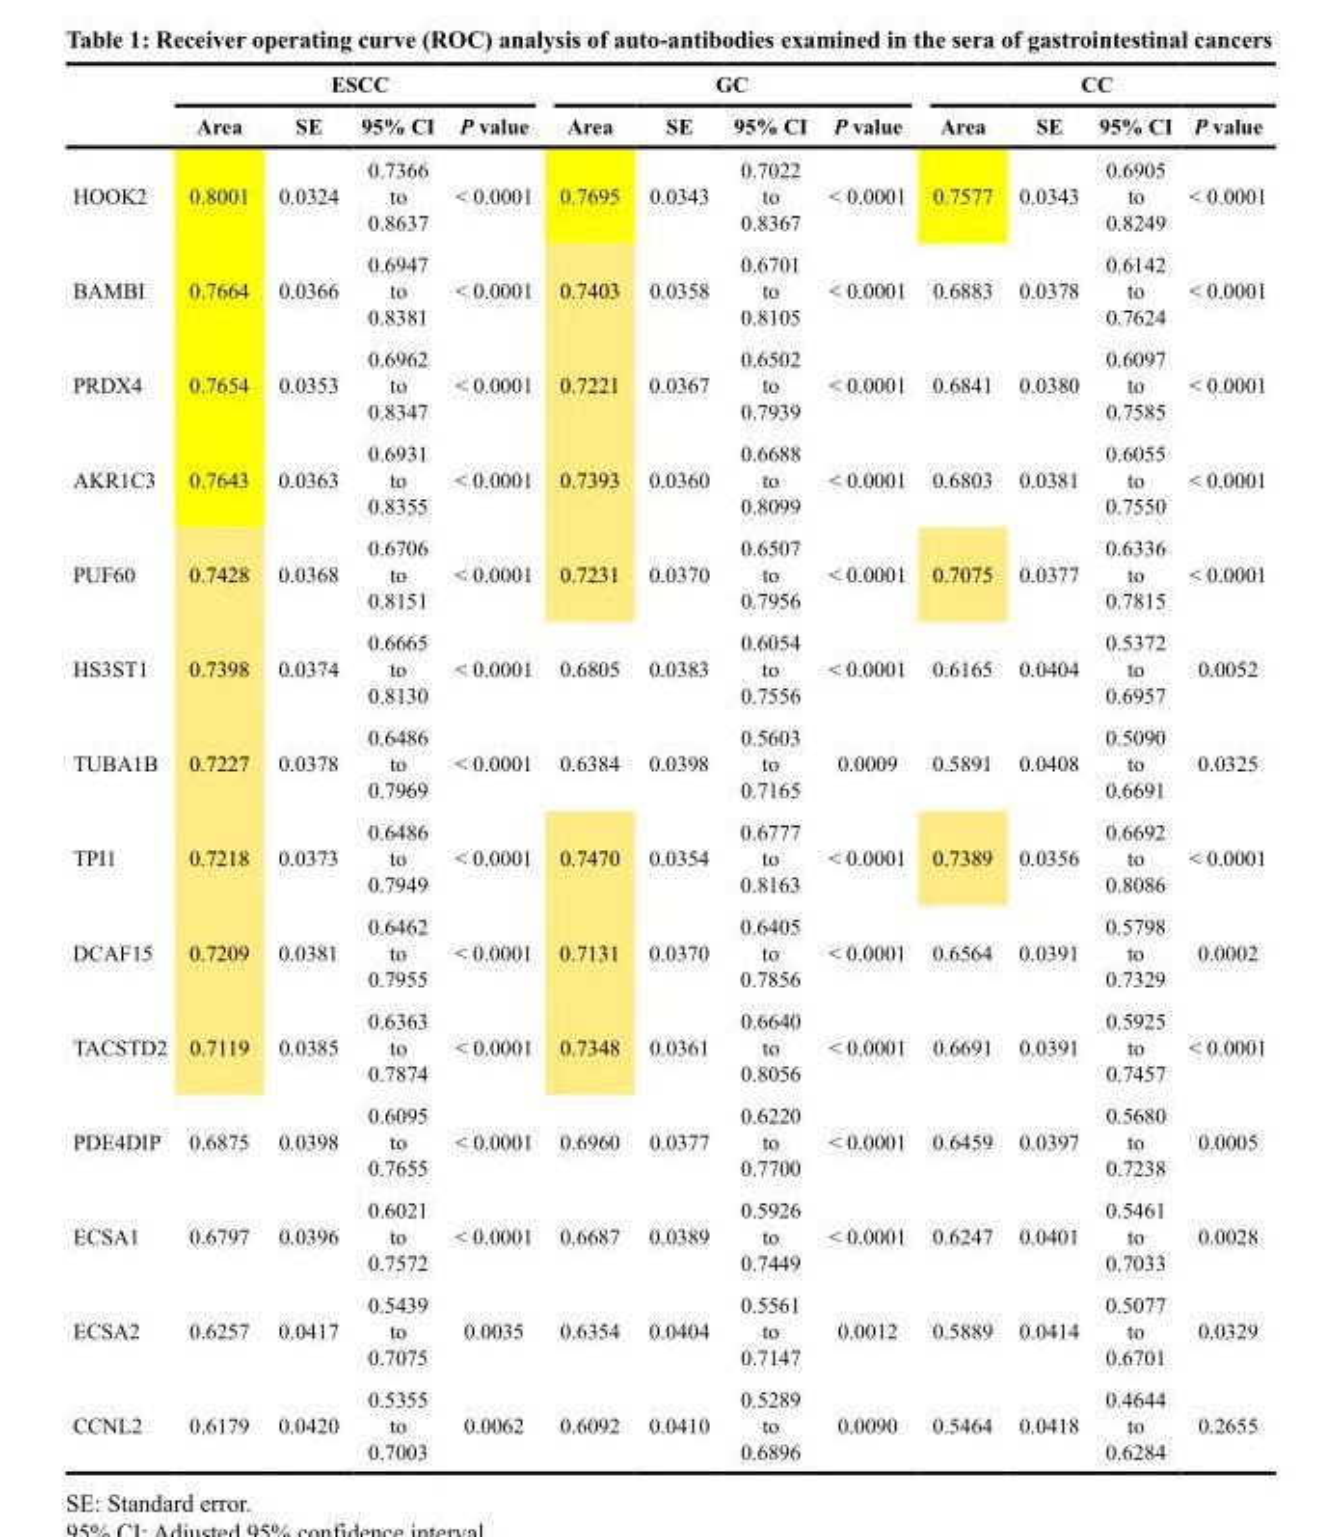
<table><thead><tr><td rowspan="2"></td><td colspan="4">ESCC</td><td colspan="4">GC</td><td colspan="4">CC</td></tr><tr><td>Area</td><td>SE</td><td>95% CI</td><td>P value</td><td>Area</td><td>SE</td><td>95% CI</td><td>P value</td><td>Area</td><td>SE</td><td>95% CI</td><td>P value</td></tr></thead><tbody><tr><td>HOOK2</td><td>0.8001</td><td>0.0324</td><td>0.7366 to 0.8637</td><td>&lt; 0.0001</td><td>0.7695</td><td>0.0343</td><td>0.7022 to 0.8367</td><td>&lt; 0.0001</td><td>0.7577</td><td>0.0343</td><td>0.6905 to 0.8249</td><td>&lt; 0.0001</td></tr><tr><td>BAMBI</td><td>0.7664</td><td>0.0366</td><td>0.6947 to 0.8381</td><td>&lt; 0.0001</td><td>0.7403</td><td>0.0358</td><td>0.6701 to 0.8105</td><td>&lt; 0.0001</td><td>0.6883</td><td>0.0378</td><td>0.6142 to 0.7624</td><td>&lt; 0.0001</td></tr><tr><td>PRDX4</td><td>0.7654</td><td>0.0353</td><td>0.6962 to 0.8347</td><td>&lt; 0.0001</td><td>0.7221</td><td>0.0367</td><td>0.6502 to 0.7939</td><td>&lt; 0.0001</td><td>0.6841</td><td>0.0380</td><td>0.6097 to 0.7585</td><td>&lt; 0.0001</td></tr><tr><td>AKR1C3</td><td>0.7643</td><td>0.0363</td><td>0.6931 to 0.8355</td><td>&lt; 0.0001</td><td>0.7393</td><td>0.0360</td><td>0.6688 to 0.8099</td><td>&lt; 0.0001</td><td>0.6803</td><td>0.0381</td><td>0.6055 to 0.7550</td><td>&lt; 0.0001</td></tr><tr><td>PUF60</td><td>0.7428</td><td>0.0368</td><td>0.6706 to 0.8151</td><td>&lt; 0.0001</td><td>0.7231</td><td>0.0370</td><td>0.6507 to 0.7956</td><td>&lt; 0.0001</td><td>0.7075</td><td>0.0377</td><td>0.6336 to 0.7815</td><td>&lt; 0.0001</td></tr><tr><td>HS3ST1</td><td>0.7398</td><td>0.0374</td><td>0.6665 to 0.8130</td><td>&lt; 0.0001</td><td>0.6805</td><td>0.0383</td><td>0.6054 to 0.7556</td><td>&lt; 0.0001</td><td>0.6165</td><td>0.0404</td><td>0.5372 to 0.6957</td><td>0.0052</td></tr><tr><td>TUBA1B</td><td>0.7227</td><td>0.0378</td><td>0.6486 to 0.7969</td><td>&lt; 0.0001</td><td>0.6384</td><td>0.0398</td><td>0.5603 to 0.7165</td><td>0.0009</td><td>0.5891</td><td>0.0408</td><td>0.5090 to 0.6691</td><td>0.0325</td></tr><tr><td>TPI1</td><td>0.7218</td><td>0.0373</td><td>0.6486 to 0.7949</td><td>&lt; 0.0001</td><td>0.7470</td><td>0.0354</td><td>0.6777 to 0.8163</td><td>&lt; 0.0001</td><td>0.7389</td><td>0.0356</td><td>0.6692 to 0.8086</td><td>&lt; 0.0001</td></tr><tr><td>DCAF15</td><td>0.7209</td><td>0.0381</td><td>0.6462 to 0.7955</td><td>&lt; 0.0001</td><td>0.7131</td><td>0.0370</td><td>0.6405 to 0.7856</td><td>&lt; 0.0001</td><td>0.6564</td><td>0.0391</td><td>0.5798 to 0.7329</td><td>0.0002</td></tr><tr><td>TACSTD2</td><td>0.7119</td><td>0.0385</td><td>0.6363 to 0.7874</td><td>&lt; 0.0001</td><td>0.7348</td><td>0.0361</td><td>0.6640 to 0.8056</td><td>&lt; 0.0001</td><td>0.6691</td><td>0.0391</td><td>0.5925 to 0.7457</td><td>&lt; 0.0001</td></tr><tr><td>PDE4DIP</td><td>0.6875</td><td>0.0398</td><td>0.6095 to 0.7655</td><td>&lt; 0.0001</td><td>0.6960</td><td>0.0377</td><td>0.6220 to 0.7700</td><td>&lt; 0.0001</td><td>0.6459</td><td>0.0397</td><td>0.5680 to 0.7238</td><td>0.0005</td></tr><tr><td>ECSA1</td><td>0.6797</td><td>0.0396</td><td>0.6021 to 0.7572</td><td>&lt; 0.0001</td><td>0.6687</td><td>0.0389</td><td>0.5926 to 0.7449</td><td>&lt; 0.0001</td><td>0.6247</td><td>0.0401</td><td>0.5461 to 0.7033</td><td>0.0028</td></tr><tr><td>ECSA2</td><td>0.6257</td><td>0.0417</td><td>0.5439 to 0.7075</td><td>0.0035</td><td>0.6354</td><td>0.0404</td><td>0.5561 to 0.7147</td><td>0.0012</td><td>0.5889</td><td>0.0414</td><td>0.5077 to 0.6701</td><td>0.0329</td></tr><tr><td>CCNL2</td><td>0.6179</td><td>0.0420</td><td>0.5355 to 0.7003</td><td>0.0062</td><td>0.6092</td><td>0.0410</td><td>0.5289 to 0.6896</td><td>0.0090</td><td>0.5464</td><td>0.0418</td><td>0.4644 to 0.6284</td><td>0.2655</td></tr></tbody></table>